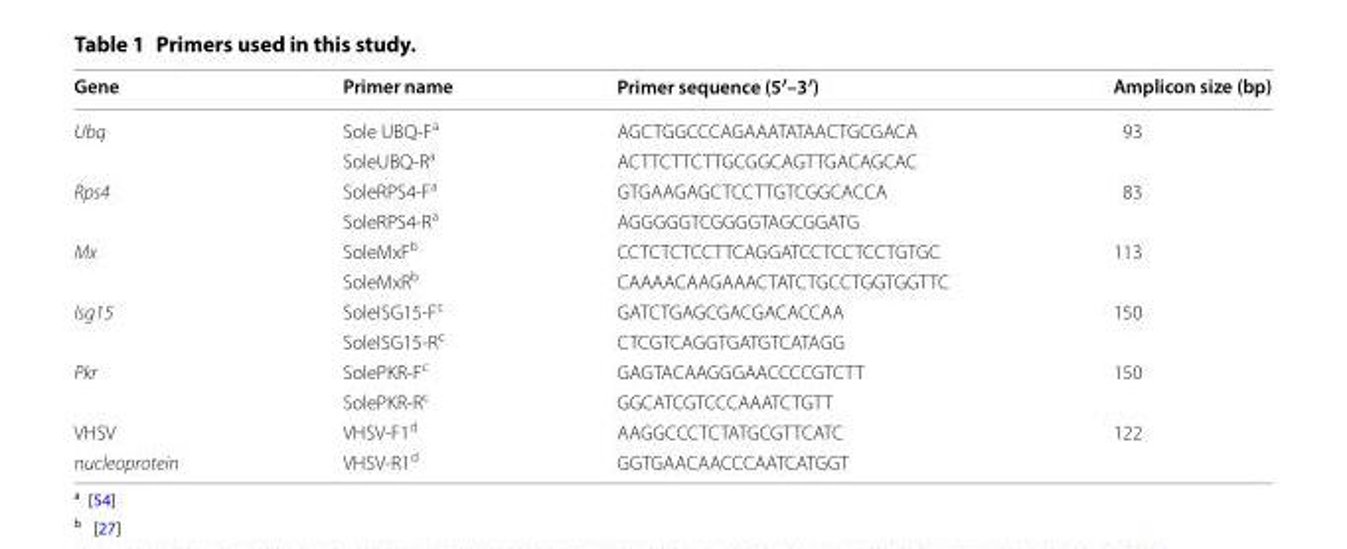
<table><thead><tr><td>Gene</td><td>Primer name</td><td>Primer sequence (5′–3′)</td><td>Amplicon size (bp)</td></tr></thead><tbody><tr><td rowspan="2">Ubq</td><td>Sole UBQ‑F<sup>a</sup></td><td>AGCTGGCCCAGAAATATAACTGCGACA</td><td>93</td></tr><tr><td>SoleUBQ‑R<sup>a</sup></td><td>ACTTCTTCTTGCGGCAGTTGACAGCAC</td><td></td></tr><tr><td rowspan="2">Rps4</td><td>SoleRPS4‑F<sup>a</sup></td><td>GTGAAGAGCTCCTTGTCGGCACCA</td><td>83</td></tr><tr><td>SoleRPS4‑R<sup>a</sup></td><td>AGGGGGTCGGGGTAGCGGATG</td><td></td></tr><tr><td rowspan="2">Mx</td><td>SoleMxF<sup>b</sup></td><td>CCTCTCTCCTTCAGGATCCTCCTCCTGTGC</td><td>113</td></tr><tr><td>SoleMxR<sup>b</sup></td><td>CAAAACAAGAAACTATCTGCCTGGTGGTTC</td><td></td></tr><tr><td rowspan="2">Isg15</td><td>SoleISG15‑F<sup>c</sup></td><td>GATCTGAGCGACGACACCAA</td><td>150</td></tr><tr><td>SoleISG15‑R<sup>c</sup></td><td>CTCGTCAGGTGATGTCATAGG</td><td></td></tr><tr><td rowspan="2">Pkr</td><td>SolePKR‑F<sup>c</sup></td><td>GAGTACAAGGGAACCCCGTCTT</td><td>150</td></tr><tr><td>SolePKR‑R<sup>c</sup></td><td>GGCATCGTCCCAAATCTGTT</td><td></td></tr><tr><td>VHSV</td><td>VHSV‑F1<sup>d</sup></td><td>AAGGCCCTCTATGCGTTCATC</td><td>122</td></tr><tr><td>nucleoprotein</td><td>VHSV‑R1<sup>d</sup></td><td>GGTGAACAACCCAATCATGGT</td><td></td></tr></tbody></table>